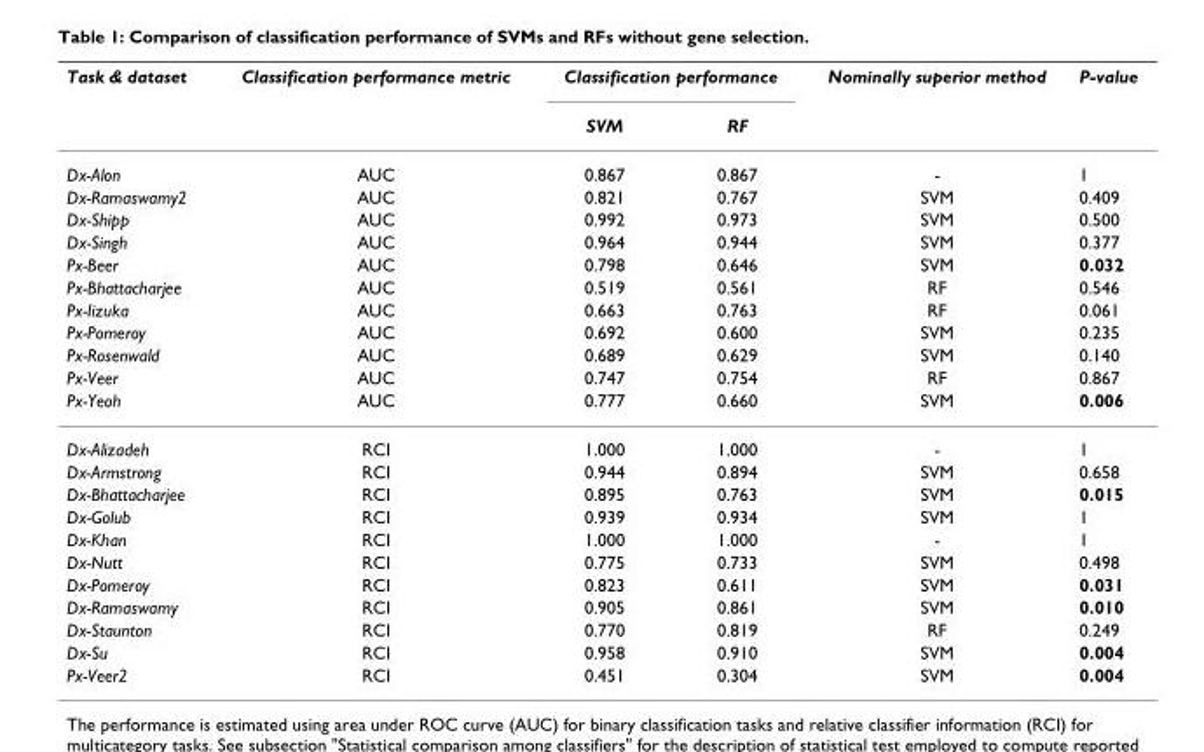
<table><thead><tr><td rowspan="2">Task &amp; dataset</td><td rowspan="2">Classification performance metric</td><td colspan="2">Classification performance</td><td rowspan="2">Nominally superior method</td><td rowspan="2">P-value</td></tr><tr><td>SVM</td><td>RF</td></tr></thead><tbody><tr><td>Dx-Alon</td><td>AUC</td><td>0.867</td><td>0.867</td><td>-</td><td>1</td></tr><tr><td>Dx-Ramaswamy2</td><td>AUC</td><td>0.821</td><td>0.767</td><td>SVM</td><td>0.409</td></tr><tr><td>Dx-Shipp</td><td>AUC</td><td>0.992</td><td>0.973</td><td>SVM</td><td>0.500</td></tr><tr><td>Dx-Singh</td><td>AUC</td><td>0.964</td><td>0.944</td><td>SVM</td><td>0.377</td></tr><tr><td>Px-Beer</td><td>AUC</td><td>0.798</td><td>0.646</td><td>SVM</td><td>0.032</td></tr><tr><td>Px-Bhattacharjee</td><td>AUC</td><td>0.519</td><td>0.561</td><td>RF</td><td>0.546</td></tr><tr><td>Px-Iizuka</td><td>AUC</td><td>0.663</td><td>0.763</td><td>RF</td><td>0.061</td></tr><tr><td>Px-Pomeroy</td><td>AUC</td><td>0.692</td><td>0.600</td><td>SVM</td><td>0.235</td></tr><tr><td>Px-Rosenwald</td><td>AUC</td><td>0.689</td><td>0.629</td><td>SVM</td><td>0.140</td></tr><tr><td>Px-Veer</td><td>AUC</td><td>0.747</td><td>0.754</td><td>RF</td><td>0.867</td></tr><tr><td>Px-Yeoh</td><td>AUC</td><td>0.777</td><td>0.660</td><td>SVM</td><td>0.006</td></tr><tr><td>Dx-Alizadeh</td><td>RCI</td><td>1.000</td><td>1.000</td><td>-</td><td>1</td></tr><tr><td>Dx-Armstrong</td><td>RCI</td><td>0.944</td><td>0.894</td><td>SVM</td><td>0.658</td></tr><tr><td>Dx-Bhattacharjee</td><td>RCI</td><td>0.895</td><td>0.763</td><td>SVM</td><td>0.015</td></tr><tr><td>Dx-Golub</td><td>RCI</td><td>0.939</td><td>0.934</td><td>SVM</td><td>1</td></tr><tr><td>Dx-Khan</td><td>RCI</td><td>1.000</td><td>1.000</td><td>-</td><td>1</td></tr><tr><td>Dx-Nutt</td><td>RCI</td><td>0.775</td><td>0.733</td><td>SVM</td><td>0.498</td></tr><tr><td>Dx-Pomeroy</td><td>RCI</td><td>0.823</td><td>0.611</td><td>SVM</td><td>0.031</td></tr><tr><td>Dx-Ramaswamy</td><td>RCI</td><td>0.905</td><td>0.861</td><td>SVM</td><td>0.010</td></tr><tr><td>Dx-Staunton</td><td>RCI</td><td>0.770</td><td>0.819</td><td>RF</td><td>0.249</td></tr><tr><td>Dx-Su</td><td>RCI</td><td>0.958</td><td>0.910</td><td>SVM</td><td>0.004</td></tr><tr><td>Px-Veer2</td><td>RCI</td><td>0.451</td><td>0.304</td><td>SVM</td><td>0.004</td></tr></tbody></table>